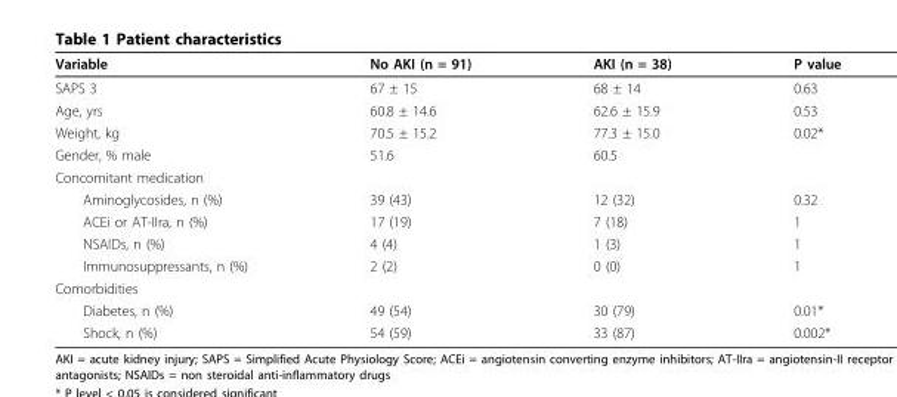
<table><thead><tr><td>Variable</td><td>No AKI (n = 91)</td><td>AKI (n = 38)</td><td>P value</td></tr></thead><tbody><tr><td>SAPS 3</td><td>67 ± 15</td><td>68 ± 14</td><td>0.63</td></tr><tr><td>Age, yrs</td><td>60.8 ± 14.6</td><td>62.6 ± 15.9</td><td>0.53</td></tr><tr><td>Weight, kg</td><td>70.5 ± 15.2</td><td>77.3 ± 15.0</td><td>0.02*</td></tr><tr><td>Gender, % male</td><td>51.6</td><td>60.5</td><td></td></tr><tr><td colspan="4">Concomitant medication</td></tr><tr><td>Aminoglycosides, n (%)</td><td>39 (43)</td><td>12 (32)</td><td>0.32</td></tr><tr><td>ACEi or AT-IIra, n (%)</td><td>17 (19)</td><td>7 (18)</td><td>1</td></tr><tr><td>NSAIDs, n (%)</td><td>4 (4)</td><td>1 (3)</td><td>1</td></tr><tr><td>Immunosuppressants, n (%)</td><td>2 (2)</td><td>0 (0)</td><td>1</td></tr><tr><td colspan="4">Comorbidities</td></tr><tr><td>Diabetes, n (%)</td><td>49 (54)</td><td>30 (79)</td><td>0.01*</td></tr><tr><td>Shock, n (%)</td><td>54 (59)</td><td>33 (87)</td><td>0.002*</td></tr></tbody></table>